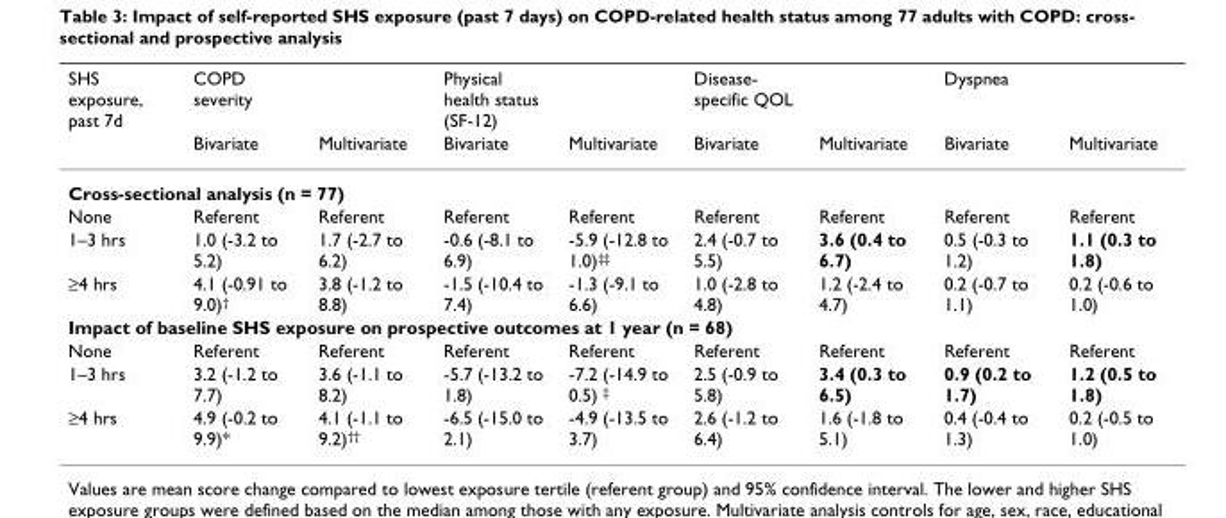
<table><thead><tr><td rowspan="2">SHS exposure, past 7d</td><td rowspan="2">COPD severity Bivariate</td><td rowspan="2">Multivariate</td><td rowspan="2">Physical health status (SF-12) Bivariate</td><td rowspan="2">Multivariate</td><td rowspan="2">Disease- specific QOL Bivariate</td><td rowspan="2">Multivariate</td><td rowspan="2">Dyspnea Bivariate</td><td rowspan="2">Multivariate</td></tr><tr></tr></thead><tbody><tr><td colspan="9">Cross-sectional analysis (n = 77)</td></tr><tr><td>None</td><td>Referent</td><td>Referent</td><td>Referent</td><td>Referent</td><td>Referent</td><td>Referent</td><td>Referent</td><td>Referent</td></tr><tr><td>1–3 hrs</td><td>1.0 (-3.2 to 5.2)</td><td>1.7 (-2.7 to 6.2)</td><td>-0.6 (-8.1 to 6.9)</td><td>-5.9 (-12.8 to 1.0)‡‡</td><td>2.4 (-0.7 to 5.5)</td><td>3.6 (0.4 to 6.7)</td><td>0.5 (-0.3 to 1.2)</td><td>1.1 (0.3 to 1.8)</td></tr><tr><td>≥4 hrs</td><td>4.1 (-0.91 to 9.0)†</td><td>3.8 (-1.2 to 8.8)</td><td>-1.5 (-10.4 to 7.4)</td><td>-1.3 (-9.1 to 6.6)</td><td>1.0 (-2.8 to 4.8)</td><td>1.2 (-2.4 to 4.7)</td><td>0.2 (-0.7 to 1.1)</td><td>0.2 (-0.6 to 1.0)</td></tr><tr><td colspan="9">Impact of baseline SHS exposure on prospective outcomes at 1 year (n = 68)</td></tr><tr><td>None</td><td>Referent</td><td>Referent</td><td>Referent</td><td>Referent</td><td>Referent</td><td>Referent</td><td>Referent</td><td>Referent</td></tr><tr><td>1–3 hrs</td><td>3.2 (-1.2 to 7.7)</td><td>3.6 (-1.1 to 8.2)</td><td>-5.7 (-13.2 to 1.8)</td><td>-7.2 (-14.9 to 0.5) ‡</td><td>2.5 (-0.9 to 5.8)</td><td>3.4 (0.3 to 6.5)</td><td>0.9 (0.2 to 1.7)</td><td>1.2 (0.5 to 1.8)</td></tr><tr><td>≥4 hrs</td><td>4.9 (-0.2 to 9.9)*</td><td>4.1 (-1.1 to 9.2)††</td><td>-6.5 (-15.0 to 2.1)</td><td>-4.9 (-13.5 to 3.7)</td><td>2.6 (-1.2 to 6.4)</td><td>1.6 (-1.8 to 5.1)</td><td>0.4 (-0.4 to 1.3)</td><td>0.2 (-0.5 to 1.0)</td></tr></tbody></table>